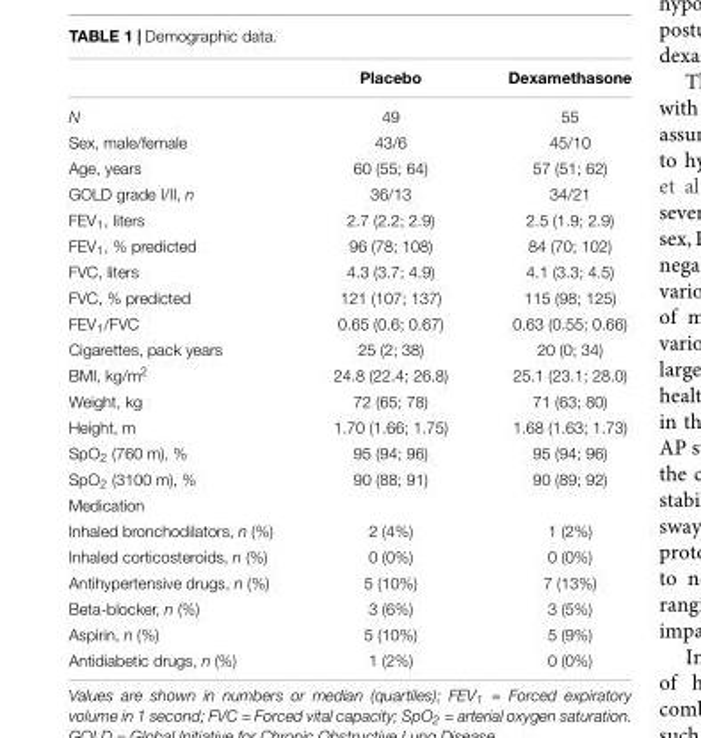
<table><thead><tr><td></td><td>Placebo</td><td>Dexamethasone</td></tr></thead><tbody><tr><td>N</td><td>49</td><td>55</td></tr><tr><td>Sex, male/female</td><td>43/6</td><td>45/10</td></tr><tr><td>Age, years</td><td>60 (55; 64)</td><td>57 (51; 62)</td></tr><tr><td>GOLD grade I/II, n</td><td>36/13</td><td>34/21</td></tr><tr><td>FEV<sub>1</sub>, liters</td><td>2.7 (2.2; 2.9)</td><td>2.5 (1.9; 2.9)</td></tr><tr><td>FEV<sub>1</sub>, % predicted</td><td>96 (78; 108)</td><td>84 (70; 102)</td></tr><tr><td>FVC, liters</td><td>4.3 (3.7; 4.9)</td><td>4.1 (3.3; 4.5)</td></tr><tr><td>FVC, % predicted</td><td>121 (107; 137)</td><td>115 (98; 125)</td></tr><tr><td>FEV<sub>1</sub>/FVC</td><td>0.65 (0.6; 0.67)</td><td>0.63 (0.55; 0.66)</td></tr><tr><td>Cigarettes, pack years</td><td>25 (2; 38)</td><td>20 (0; 34)</td></tr><tr><td>BMI, kg/m<sup>2</sup></td><td>24.8 (22.4; 26.8)</td><td>25.1 (23.1; 28.0)</td></tr><tr><td>Weight, kg</td><td>72 (65; 78)</td><td>71 (63; 80)</td></tr><tr><td>Height, m</td><td>1.70 (1.66; 1.75)</td><td>1.68 (1.63; 1.73)</td></tr><tr><td>SpO<sub>2</sub> (760 m), %</td><td>95 (94; 96)</td><td>95 (94; 96)</td></tr><tr><td>SpO<sub>2</sub> (3100 m), %</td><td>90 (88; 91)</td><td>90 (89; 92)</td></tr><tr><td colspan="3">Medication</td></tr><tr><td>Inhaled bronchodilators, n (%)</td><td>2 (4%)</td><td>1 (2%)</td></tr><tr><td>Inhaled corticosteroids, n (%)</td><td>0 (0%)</td><td>0 (0%)</td></tr><tr><td>Antihypertensive drugs, n (%)</td><td>5 (10%)</td><td>7 (13%)</td></tr><tr><td>Beta-blocker, n (%)</td><td>3 (6%)</td><td>3 (5%)</td></tr><tr><td>Aspirin, n (%)</td><td>5 (10%)</td><td>5 (9%)</td></tr><tr><td>Antidiabetic drugs, n (%)</td><td>1 (2%)</td><td>0 (0%)</td></tr></tbody></table>